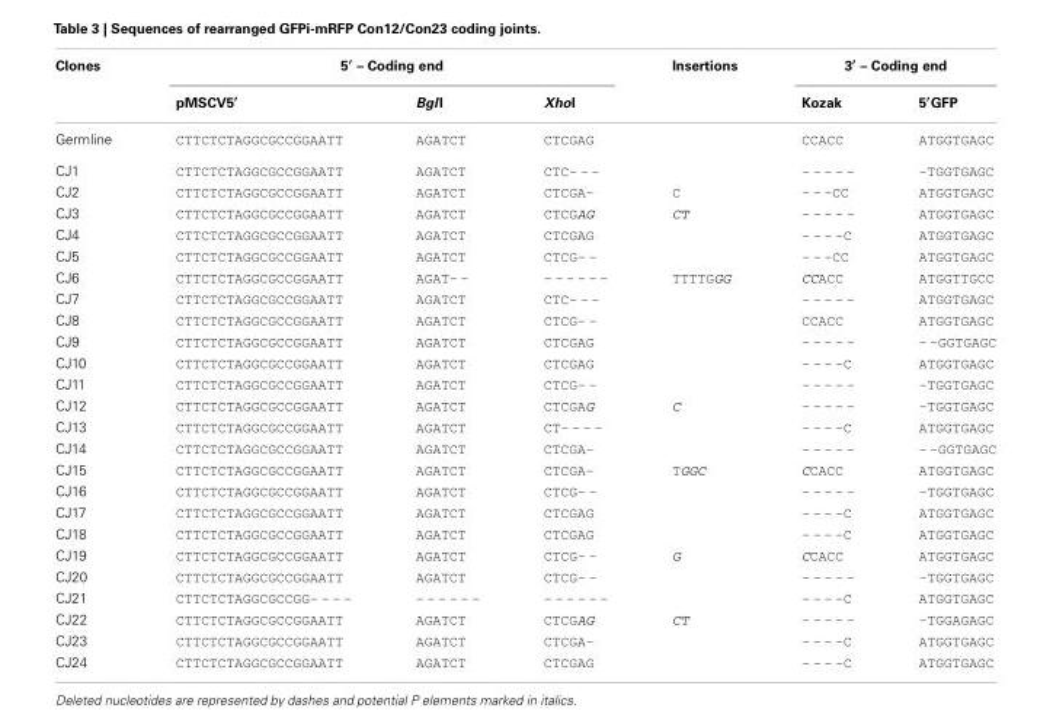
<table><thead><tr><td rowspan="2">Clones</td><td colspan="3">5′ – Coding end</td><td rowspan="2">Insertions</td><td colspan="2">3′ – Coding end</td></tr><tr><td>pMSCV5′</td><td>BglI</td><td>XhoI</td><td>Kozak</td><td>5′GFP</td></tr></thead><tbody><tr><td>Germline</td><td>CTTCTCTAGGCGCCGGAATT</td><td>AGATCT</td><td>CTCGAG</td><td></td><td>CCACC</td><td>ATGGTGAGC</td></tr><tr><td>CJ1</td><td>CTTCTCTAGGCGCCGGAATT</td><td>AGATCT</td><td>CTC- - -</td><td></td><td>- - - - -</td><td>-TGGTGAGC</td></tr><tr><td>CJ2</td><td>CTTCTCTAGGCGCCGGAATT</td><td>AGATCT</td><td>CTCGA-</td><td>C</td><td>- - -CC</td><td>ATGGTGAGC</td></tr><tr><td>CJ3</td><td>CTTCTCTAGGCGCCGGAATT</td><td>AGATCT</td><td>CTCGAG</td><td>CT</td><td>- - - - -</td><td>ATGGTGAGC</td></tr><tr><td>CJ4</td><td>CTTCTCTAGGCGCCGGAATT</td><td>AGATCT</td><td>CTCGAG</td><td></td><td>- - - -C</td><td>ATGGTGAGC</td></tr><tr><td>CJ5</td><td>CTTCTCTAGGCGCCGGAATT</td><td>AGATCT</td><td>CTCG- -</td><td></td><td>- - -CC</td><td>ATGGTGAGC</td></tr><tr><td>CJ6</td><td>CTTCTCTAGGCGCCGGAATT</td><td>AGAT- -</td><td>- - - - - -</td><td>TTTTGGG</td><td>CCACC</td><td>ATGGTTGCC</td></tr><tr><td>CJ7</td><td>CTTCTCTAGGCGCCGGAATT</td><td>AGATCT</td><td>CTC- - -</td><td></td><td>- - - - -</td><td>ATGGTGAGC</td></tr><tr><td>CJ8</td><td>CTTCTCTAGGCGCCGGAATT</td><td>AGATCT</td><td>CTCG- -</td><td></td><td>CCACC</td><td>ATGGTGAGC</td></tr><tr><td>CJ9</td><td>CTTCTCTAGGCGCCGGAATT</td><td>AGATCT</td><td>CTCGAG</td><td></td><td>- - - - -</td><td>- -GGTGAGC</td></tr><tr><td>CJ10</td><td>CTTCTCTAGGCGCCGGAATT</td><td>AGATCT</td><td>CTCGAG</td><td></td><td>- - - -C</td><td>ATGGTGAGC</td></tr><tr><td>CJ11</td><td>CTTCTCTAGGCGCCGGAATT</td><td>AGATCT</td><td>CTCG- -</td><td></td><td>- - - - -</td><td>-TGGTGAGC</td></tr><tr><td>CJ12</td><td>CTTCTCTAGGCGCCGGAATT</td><td>AGATCT</td><td>CTCGAG</td><td>C</td><td>- - - - -</td><td>-TGGTGAGC</td></tr><tr><td>CJ13</td><td>CTTCTCTAGGCGCCGGAATT</td><td>AGATCT</td><td>CT- - - -</td><td></td><td>- - - -C</td><td>ATGGTGAGC</td></tr><tr><td>CJ14</td><td>CTTCTCTAGGCGCCGGAATT</td><td>AGATCT</td><td>CTCGA-</td><td></td><td>- - - - -</td><td>- -GGTGAGC</td></tr><tr><td>CJ15</td><td>CTTCTCTAGGCGCCGGAATT</td><td>AGATCT</td><td>CTCGA-</td><td>TGGC</td><td>CCACC</td><td>ATGGTGAGC</td></tr><tr><td>CJ16</td><td>CTTCTCTAGGCGCCGGAATT</td><td>AGATCT</td><td>CTCG- -</td><td></td><td>- - - - -</td><td>-TGGTGAGC</td></tr><tr><td>CJ17</td><td>CTTCTCTAGGCGCCGGAATT</td><td>AGATCT</td><td>CTCGAG</td><td></td><td>- - - -C</td><td>ATGGTGAGC</td></tr><tr><td>CJ18</td><td>CTTCTCTAGGCGCCGGAATT</td><td>AGATCT</td><td>CTCGAG</td><td></td><td>- - - -C</td><td>ATGGTGAGC</td></tr><tr><td>CJ19</td><td>CTTCTCTAGGCGCCGGAATT</td><td>AGATCT</td><td>CTCG- -</td><td>G</td><td>CCACC</td><td>ATGGTGAGC</td></tr><tr><td>CJ20</td><td>CTTCTCTAGGCGCCGGAATT</td><td>AGATCT</td><td>CTCG- -</td><td></td><td>- - - - -</td><td>-TGGTGAGC</td></tr><tr><td>CJ21</td><td>CTTCTCTAGGCGCCGG- - - -</td><td>- - - - - -</td><td>- - - - - -</td><td></td><td>- - - -C</td><td>ATGGTGAGC</td></tr><tr><td>CJ22</td><td>CTTCTCTAGGCGCCGGAATT</td><td>AGATCT</td><td>CTCGAG</td><td>CT</td><td>- - - - -</td><td>-TGGAGAGC</td></tr><tr><td>CJ23</td><td>CTTCTCTAGGCGCCGGAATT</td><td>AGATCT</td><td>CTCGA-</td><td></td><td>- - - -C</td><td>ATGGTGAGC</td></tr><tr><td>CJ24</td><td>CTTCTCTAGGCGCCGGAATT</td><td>AGATCT</td><td>CTCGAG</td><td></td><td>- - - -C</td><td>ATGGTGAGC</td></tr></tbody></table>